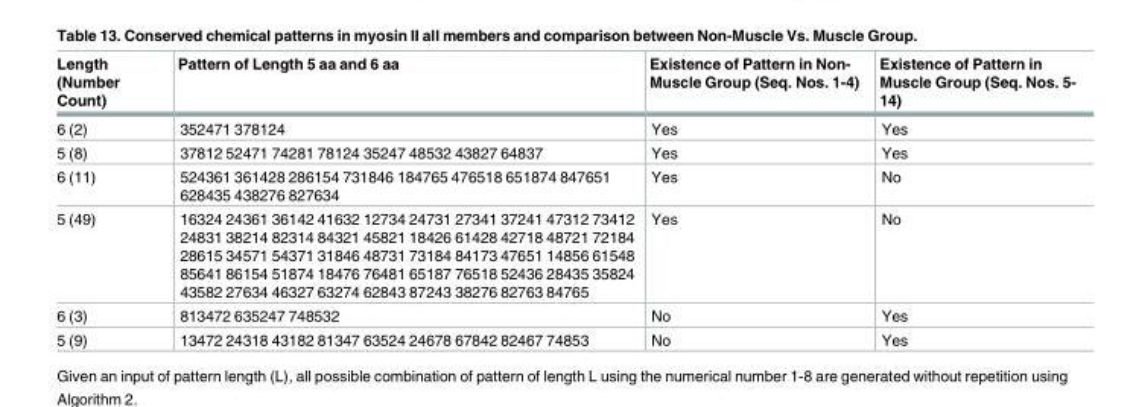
<table><thead><tr><td>Length (Number Count)</td><td>Pattern of Length 5 aa and 6 aa</td><td>Existence of Pattern in Non- Muscle Group (Seq. Nos. 1-4)</td><td>Existence of Pattern in Muscle Group (Seq. Nos. 5- 14)</td></tr></thead><tbody><tr><td>6 (2)</td><td>352471 378124</td><td>Yes</td><td>Yes</td></tr><tr><td>5 (8)</td><td>37812 52471 74281 78124 35247 48532 43827 64837</td><td>Yes</td><td>Yes</td></tr><tr><td>6 (11)</td><td>524361 361428 286154 731846 184765 476518 651874 847651 628435 438276 827634</td><td>Yes</td><td>No</td></tr><tr><td>5 (49)</td><td>16324 24361 36142 41632 12734 24731 27341 37241 47312 73412 24831 38214 82314 84321 45821 18426 61428 42718 48721 72184 28615 34571 54371 31846 48731 73184 84173 47651 14856 61548 85641 86154 51874 18476 76481 65187 76518 52436 28435 35824 43582 27634 46327 63274 62843 87243 38276 82763 84765</td><td>Yes</td><td>No</td></tr><tr><td>6 (3)</td><td>813472 635247 748532</td><td>No</td><td>Yes</td></tr><tr><td>5 (9)</td><td>13472 24318 43182 81347 63524 24678 67842 82467 74853</td><td>No</td><td>Yes</td></tr></tbody></table>